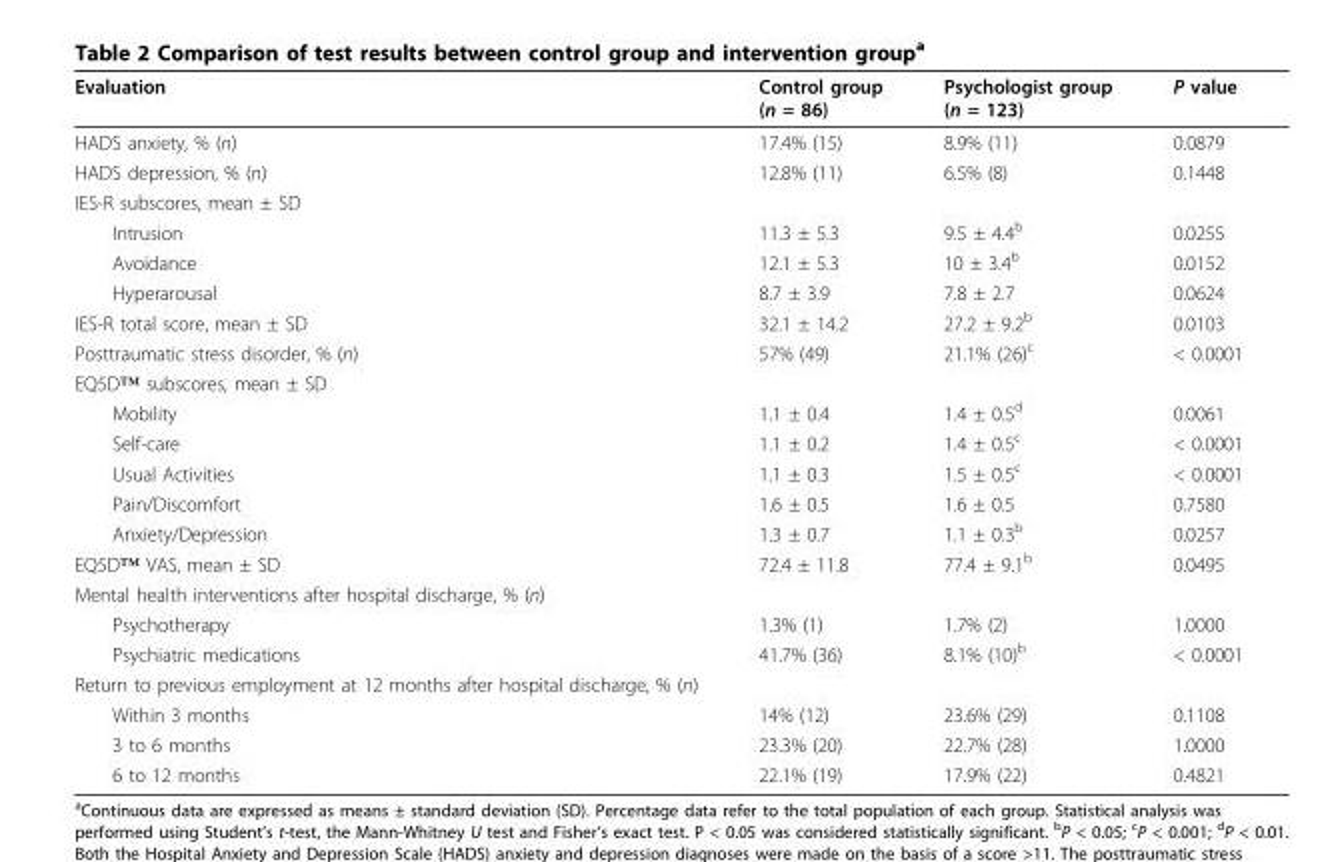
<table><thead><tr><td>Evaluation</td><td>Control group (n = 86)</td><td>Psychologist group (n = 123)</td><td>P value</td></tr></thead><tbody><tr><td>HADS anxiety, % (n)</td><td>17.4% (15)</td><td>8.9% (11)</td><td>0.0879</td></tr><tr><td>HADS depression, % (n)</td><td>12.8% (11)</td><td>6.5% (8)</td><td>0.1448</td></tr><tr><td colspan="4">IES-R subscores, mean ± SD</td></tr><tr><td>Intrusion</td><td>11.3 ± 5.3</td><td>9.5 ± 4.4<sup>b</sup></td><td>0.0255</td></tr><tr><td>Avoidance</td><td>12.1 ± 5.3</td><td>10 ± 3.4<sup>b</sup></td><td>0.0152</td></tr><tr><td>Hyperarousal</td><td>8.7 ± 3.9</td><td>7.8 ± 2.7</td><td>0.0624</td></tr><tr><td>IES-R total score, mean ± SD</td><td>32.1 ± 14.2</td><td>27.2 ± 9.2<sup>b</sup></td><td>0.0103</td></tr><tr><td>Posttraumatic stress disorder, % (n)</td><td>57% (49)</td><td>21.1% (26)<sup>c</sup></td><td>&lt; 0.0001</td></tr><tr><td colspan="4">EQ5D™ subscores, mean ± SD</td></tr><tr><td>Mobility</td><td>1.1 ± 0.4</td><td>1.4 ± 0.5<sup>d</sup></td><td>0.0061</td></tr><tr><td>Self-care</td><td>1.1 ± 0.2</td><td>1.4 ± 0.5<sup>c</sup></td><td>&lt; 0.0001</td></tr><tr><td>Usual Activities</td><td>1.1 ± 0.3</td><td>1.5 ± 0.5<sup>c</sup></td><td>&lt; 0.0001</td></tr><tr><td>Pain/Discomfort</td><td>1.6 ± 0.5</td><td>1.6 ± 0.5</td><td>0.7580</td></tr><tr><td>Anxiety/Depression</td><td>1.3 ± 0.7</td><td>1.1 ± 0.3<sup>b</sup></td><td>0.0257</td></tr><tr><td>EQ5D™ VAS, mean ± SD</td><td>72.4 ± 11.8</td><td>77.4 ± 9.1<sup>b</sup></td><td>0.0495</td></tr><tr><td colspan="4">Mental health interventions after hospital discharge, % (n)</td></tr><tr><td>Psychotherapy</td><td>1.3% (1)</td><td>1.7% (2)</td><td>1.0000</td></tr><tr><td>Psychiatric medications</td><td>41.7% (36)</td><td>8.1% (10)<sup>b</sup></td><td>&lt; 0.0001</td></tr><tr><td colspan="4">Return to previous employment at 12 months after hospital discharge, % (n)</td></tr><tr><td>Within 3 months</td><td>14% (12)</td><td>23.6% (29)</td><td>0.1108</td></tr><tr><td>3 to 6 months</td><td>23.3% (20)</td><td>22.7% (28)</td><td>1.0000</td></tr><tr><td>6 to 12 months</td><td>22.1% (19)</td><td>17.9% (22)</td><td>0.4821</td></tr></tbody></table>